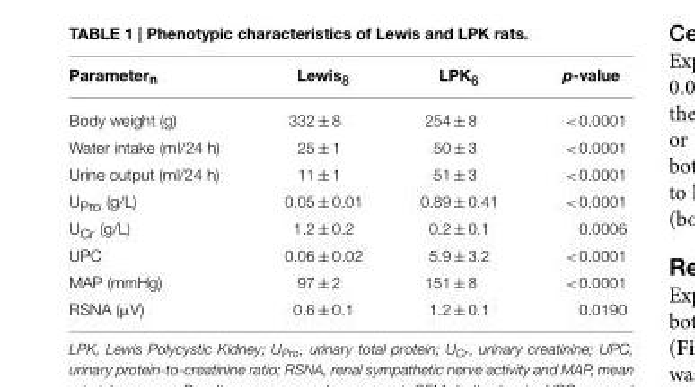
<table><thead><tr><td>Parameter<sub>n</sub></td><td>Lewis8</td><td>LPK6</td><td>p-value</td></tr></thead><tbody><tr><td>Body weight (g)</td><td>332 ± 8</td><td>254 ± 8</td><td>&lt;0.0001</td></tr><tr><td>Water intake (ml/24 h)</td><td>25 ± 1</td><td>50 ± 3</td><td>&lt;0.0001</td></tr><tr><td>Urine output (ml/24 h)</td><td>11 ± 1</td><td>51 ± 3</td><td>&lt;0.0001</td></tr><tr><td>U<sub>Pro</sub> (g/L)</td><td>0.05 ± 0.01</td><td>0.89 ± 0.41</td><td>&lt;0.0001</td></tr><tr><td>U<sub>Cr</sub> (g/L)</td><td>1.2 ± 0.2</td><td>0.2 ± 0.1</td><td>0.0006</td></tr><tr><td>UPC</td><td>0.06 ± 0.02</td><td>5.9 ± 3.2</td><td>&lt;0.0001</td></tr><tr><td>MAP (mmHg)</td><td>97 ± 2</td><td>151 ± 8</td><td>&lt;0.0001</td></tr><tr><td>RSNA (µV)</td><td>0.6 ± 0.1</td><td>1.2 ± 0.1</td><td>0.0190</td></tr></tbody></table>